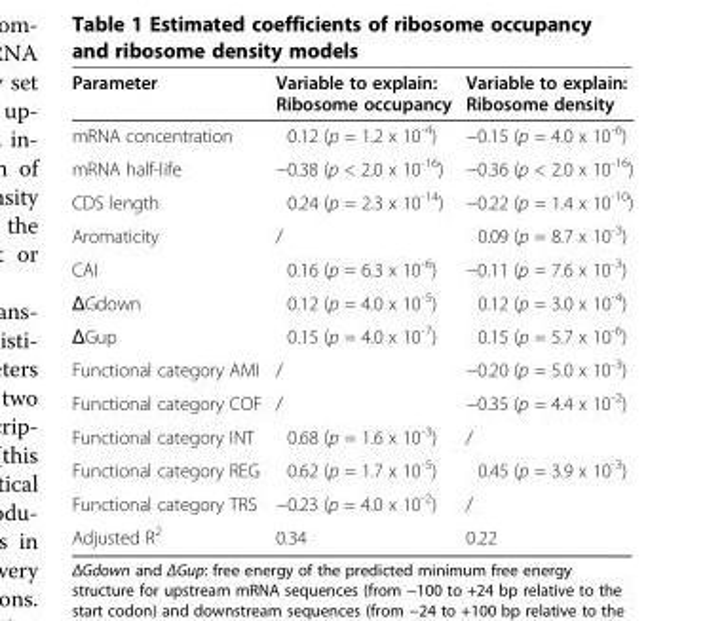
<table><thead><tr><td>Parameter</td><td>Variable to explain: Ribosome occupancy</td><td>Variable to explain: Ribosome density</td></tr></thead><tbody><tr><td>mRNA concentration</td><td>0.12 (p = 1.2 x 10<sup>-4</sup>)</td><td>−0.15 (p = 4.0 x 10<sup>-6</sup>)</td></tr><tr><td>mRNA half-life</td><td>−0.38 (p &lt; 2.0 x 10<sup>-16</sup>)</td><td>−0.36 (p &lt; 2.0 x 10<sup>-16</sup>)</td></tr><tr><td>CDS length</td><td>0.24 (p = 2.3 x 10<sup>-14</sup>)</td><td>−0.22 (p = 1.4 x 10<sup>-10</sup>)</td></tr><tr><td>Aromaticity</td><td>/</td><td>0.09 (p = 8.7 x 10<sup>-3</sup>)</td></tr><tr><td>CAI</td><td>0.16 (p = 6.3 x 10<sup>-6</sup>)</td><td>−0.11 (p = 7.6 x 10<sup>-3</sup>)</td></tr><tr><td>ΔGdown</td><td>0.12 (p = 4.0 x 10<sup>-5</sup>)</td><td>0.12 (p = 3.0 x 10<sup>-4</sup>)</td></tr><tr><td>ΔGup</td><td>0.15 (p = 4.0 x 10<sup>-7</sup>)</td><td>0.15 (p = 5.7 x 10<sup>-6</sup>)</td></tr><tr><td>Functional category AMI</td><td>/</td><td>−0.20 (p = 5.0 x 10<sup>-3</sup>)</td></tr><tr><td>Functional category COF</td><td>/</td><td>−0.35 (p = 4.4 x 10<sup>-2</sup>)</td></tr><tr><td>Functional category INT</td><td>0.68 (p = 1.6 x 10<sup>-3</sup>)</td><td>/</td></tr><tr><td>Functional category REG</td><td>0.62 (p = 1.7 x 10<sup>-5</sup>)</td><td>0.45 (p = 3.9 x 10<sup>-3</sup>)</td></tr><tr><td>Functional category TRS</td><td>−0.23 (p = 4.0 x 10<sup>-2</sup>)</td><td>/</td></tr><tr><td>Adjusted R<sup>2</sup></td><td>0.34</td><td>0.22</td></tr></tbody></table>